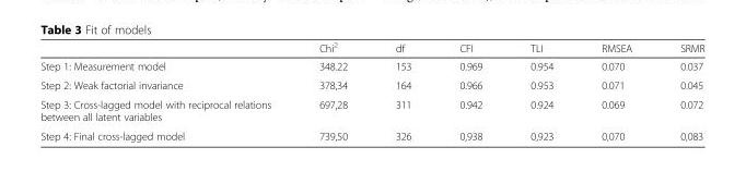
<table><thead><tr><td></td><td>Chi<sup>2</sup></td><td>df</td><td>CFI</td><td>TLI</td><td>RMSEA</td><td>SRMR</td></tr></thead><tbody><tr><td>Step 1: Measurement model</td><td>348.22</td><td>153</td><td>0.969</td><td>0.954</td><td>0.070</td><td>0.037</td></tr><tr><td>Step 2: Weak factorial invariance</td><td>378,34</td><td>164</td><td>0.966</td><td>0.953</td><td>0.071</td><td>0.045</td></tr><tr><td>Step 3: Cross-lagged model with reciprocal relations between all latent variables</td><td>697,28</td><td>311</td><td>0.942</td><td>0.924</td><td>0.069</td><td>0.072</td></tr><tr><td>Step 4: Final cross-lagged model</td><td>739,50</td><td>326</td><td>0,938</td><td>0,923</td><td>0,070</td><td>0,083</td></tr></tbody></table>